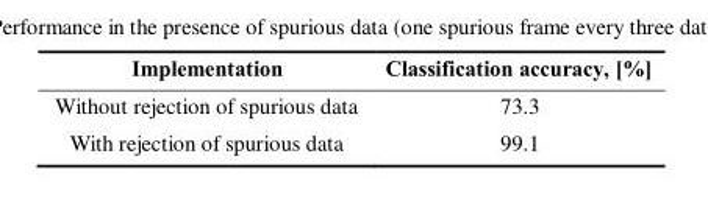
<table><thead><tr><td>Implementation</td><td>Classification accuracy, [%]</td></tr></thead><tbody><tr><td>Without rejection of spurious data</td><td>73.3</td></tr><tr><td>With rejection of spurious data</td><td>99.1</td></tr></tbody></table>